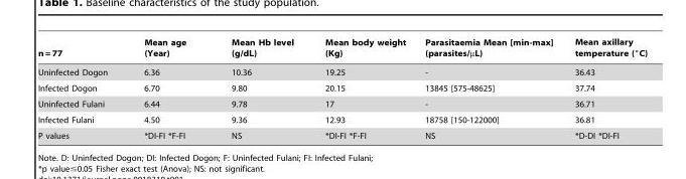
<table><thead><tr><td>n = 77</td><td>Mean age (Year)</td><td>Mean Hb level (g/dL)</td><td>Mean body weight (Kg)</td><td>Parasitaemia Mean [min-max] (parasites/µL)</td><td>Mean axillary temperature (°C)</td></tr></thead><tbody><tr><td>Uninfected Dogon</td><td>6.36</td><td>10.36</td><td>19.25</td><td>-</td><td>36.43</td></tr><tr><td>Infected Dogon</td><td>6.70</td><td>9.80</td><td>20.15</td><td>13845 [575-48625]</td><td>37.74</td></tr><tr><td>Uninfected Fulani</td><td>6.44</td><td>9.78</td><td>17</td><td>-</td><td>36.71</td></tr><tr><td>Infected Fulani</td><td>4.50</td><td>9.36</td><td>12.93</td><td>18758 [150-122000]</td><td>36.81</td></tr><tr><td>P values</td><td>*DI-FI *F-FI</td><td>NS</td><td>*DI-FI *F-FI</td><td>NS</td><td>*D-DI *DI-FI</td></tr></tbody></table>